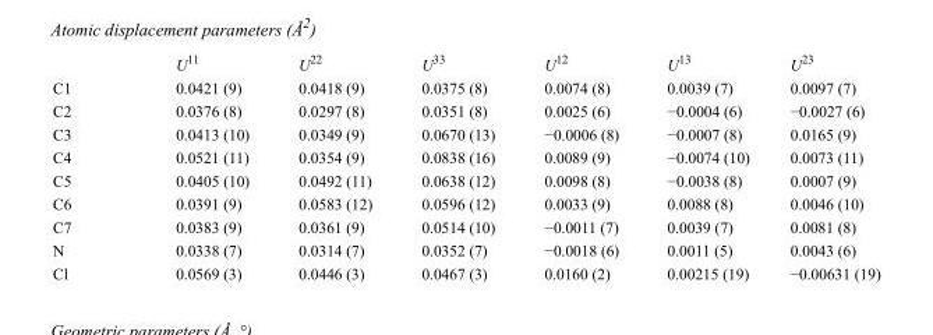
<table><thead><tr><td></td><td>U<sup>11</sup></td><td>U<sup>22</sup></td><td>U<sup>33</sup></td><td>U<sup>12</sup></td><td>U<sup>13</sup></td><td>U<sup>23</sup></td></tr></thead><tbody><tr><td>C1</td><td>0.0421 (9)</td><td>0.0418 (9)</td><td>0.0375 (8)</td><td>0.0074 (8)</td><td>0.0039 (7)</td><td>0.0097 (7)</td></tr><tr><td>C2</td><td>0.0376 (8)</td><td>0.0297 (8)</td><td>0.0351 (8)</td><td>0.0025 (6)</td><td>−0.0004 (6)</td><td>−0.0027 (6)</td></tr><tr><td>C3</td><td>0.0413 (10)</td><td>0.0349 (9)</td><td>0.0670 (13)</td><td>−0.0006 (8)</td><td>−0.0007 (8)</td><td>0.0165 (9)</td></tr><tr><td>C4</td><td>0.0521 (11)</td><td>0.0354 (9)</td><td>0.0838 (16)</td><td>0.0089 (9)</td><td>−0.0074 (10)</td><td>0.0073 (11)</td></tr><tr><td>C5</td><td>0.0405 (10)</td><td>0.0492 (11)</td><td>0.0638 (12)</td><td>0.0098 (8)</td><td>−0.0038 (8)</td><td>0.0007 (9)</td></tr><tr><td>C6</td><td>0.0391 (9)</td><td>0.0583 (12)</td><td>0.0596 (12)</td><td>0.0033 (9)</td><td>0.0088 (8)</td><td>0.0046 (10)</td></tr><tr><td>C7</td><td>0.0383 (9)</td><td>0.0361 (9)</td><td>0.0514 (10)</td><td>−0.0011 (7)</td><td>0.0039 (7)</td><td>0.0081 (8)</td></tr><tr><td>N</td><td>0.0338 (7)</td><td>0.0314 (7)</td><td>0.0352 (7)</td><td>−0.0018 (6)</td><td>0.0011 (5)</td><td>0.0043 (6)</td></tr><tr><td>Cl</td><td>0.0569 (3)</td><td>0.0446 (3)</td><td>0.0467 (3)</td><td>0.0160 (2)</td><td>0.00215 (19)</td><td>−0.00631 (19)</td></tr></tbody></table>